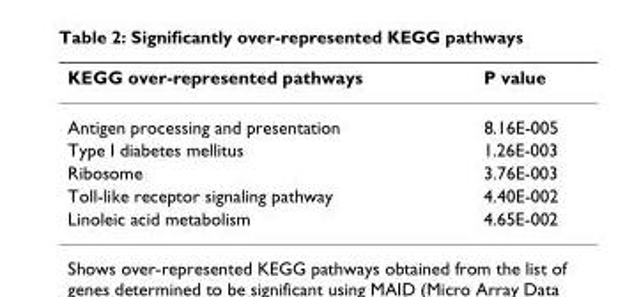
<table><thead><tr><td>KEGG over-represented pathways</td><td>P value</td></tr></thead><tbody><tr><td>Antigen processing and presentation</td><td>8.16E-005</td></tr><tr><td>Type I diabetes mellitus</td><td>1.26E-003</td></tr><tr><td>Ribosome</td><td>3.76E-003</td></tr><tr><td>Toll-like receptor signaling pathway</td><td>4.40E-002</td></tr><tr><td>Linoleic acid metabolism</td><td>4.65E-002</td></tr></tbody></table>